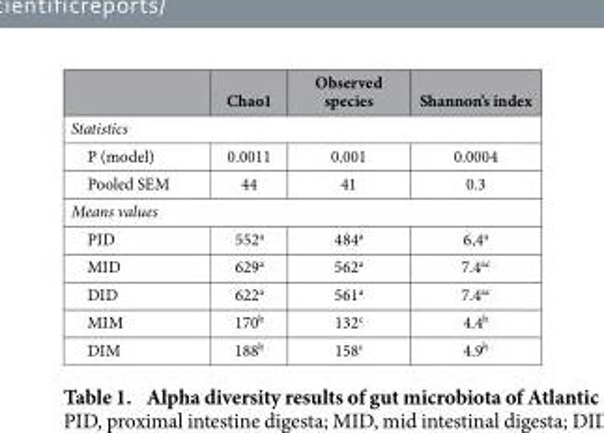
<table><thead><tr><td></td><td>Chao1</td><td>Observed species</td><td>Shannon’s index</td></tr></thead><tbody><tr><td colspan="4">Statistics</td></tr><tr><td>P (model)</td><td>0.0011</td><td>0.001</td><td>0.0004</td></tr><tr><td>Pooled SEM</td><td>44</td><td>41</td><td>0.3</td></tr><tr><td colspan="4">Means values</td></tr><tr><td>PID</td><td>552<sup>a</sup></td><td>484<sup>a</sup></td><td>6,4<sup>a</sup></td></tr><tr><td>MID</td><td>629<sup>a</sup></td><td>562<sup>a</sup></td><td>7.4<sup>ac</sup></td></tr><tr><td>DID</td><td>622<sup>a</sup></td><td>561<sup>a</sup></td><td>7.4<sup>ac</sup></td></tr><tr><td>MIM</td><td>170<sup>b</sup></td><td>132<sup>c</sup></td><td>4.4<sup>b</sup></td></tr><tr><td>DIM</td><td>188<sup>b</sup></td><td>158<sup>c</sup></td><td>4.9<sup>b</sup></td></tr></tbody></table>